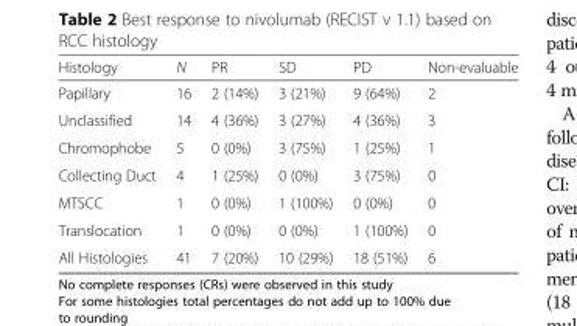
<table><thead><tr><td>Histology</td><td>N</td><td>PR</td><td>SD</td><td>PD</td><td>Non-evaluable</td></tr></thead><tbody><tr><td>Papillary</td><td>16</td><td>2 (14%)</td><td>3 (21%)</td><td>9 (64%)</td><td>2</td></tr><tr><td>Unclassified</td><td>14</td><td>4 (36%)</td><td>3 (27%)</td><td>4 (36%)</td><td>3</td></tr><tr><td>Chromophobe</td><td>5</td><td>0 (0%)</td><td>3 (75%)</td><td>1 (25%)</td><td>1</td></tr><tr><td>Collecting Duct</td><td>4</td><td>1 (25%)</td><td>0 (0%)</td><td>3 (75%)</td><td>0</td></tr><tr><td>MTSCC</td><td>1</td><td>0 (0%)</td><td>1 (100%)</td><td>0 (0%)</td><td>0</td></tr><tr><td>Translocation</td><td>1</td><td>0 (0%)</td><td>0 (0%)</td><td>1 (100%)</td><td>0</td></tr><tr><td>All Histologies</td><td>41</td><td>7 (20%)</td><td>10 (29%)</td><td>18 (51%)</td><td>6</td></tr></tbody></table>